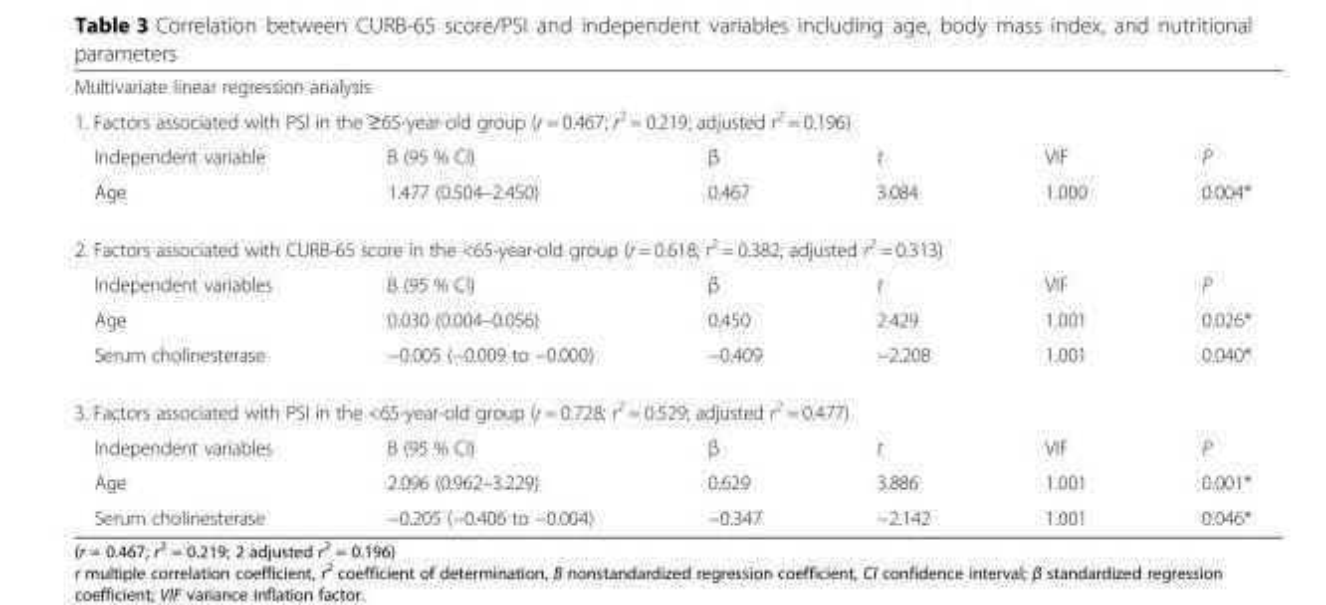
<table><tbody><tr><td colspan="6">Multivariate linear regression analysis</td></tr><tr><td colspan="6">1. Factors associated with PSI in the ≥65-year-old group (r = 0.467; r<sup>2</sup> = 0.219; adjusted r<sup>2</sup> = 0.196)</td></tr><tr><td>Independent variable</td><td>B (95 % CI)</td><td>β</td><td>t</td><td>VIF</td><td>P</td></tr><tr><td>Age</td><td>1.477 (0.504–2.450)</td><td>0.467</td><td>3.084</td><td>1.000</td><td>0.004*</td></tr><tr><td colspan="6">2. Factors associated with CURB-65 score in the &lt;65-year-old group (r = 0.618; r<sup>2</sup> = 0.382; adjusted r<sup>2</sup> = 0.313)</td></tr><tr><td>Independent variables</td><td>B (95 % CI)</td><td>β</td><td>t</td><td>VIF</td><td>P</td></tr><tr><td>Age</td><td>0.030 (0.004–0.056)</td><td>0.450</td><td>2.429</td><td>1.001</td><td>0.026*</td></tr><tr><td>Serum cholinesterase</td><td>−0.005 (−0.009 to −0.000)</td><td>−0.409</td><td>−2.208</td><td>1.001</td><td>0.040*</td></tr><tr><td colspan="6">3. Factors associated with PSI in the &lt;65-year-old group (r = 0.728; r<sup>2</sup> = 0.529; adjusted r<sup>2</sup> = 0.477)</td></tr><tr><td>Independent variables</td><td>B (95 % CI)</td><td>β</td><td>t</td><td>VIF</td><td>P</td></tr><tr><td>Age</td><td>2.096 (0.962–3.229)</td><td>0.629</td><td>3.886</td><td>1.001</td><td>0.001*</td></tr><tr><td>Serum cholinesterase</td><td>−0.205 (−0.406 to −0.004)</td><td>−0.347</td><td>−2.142</td><td>1.001</td><td>0.046*</td></tr></tbody></table>